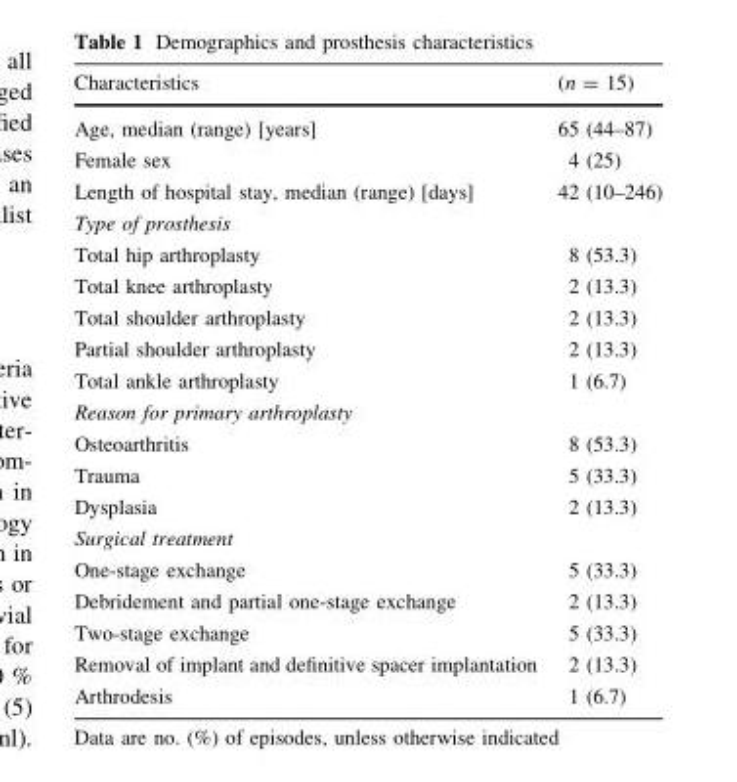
<table><thead><tr><td>Characteristics</td><td>(n = 15)</td></tr></thead><tbody><tr><td>Age, median (range) [years]</td><td>65 (44–87)</td></tr><tr><td>Female sex</td><td>4 (25)</td></tr><tr><td>Length of hospital stay, median (range) [days]</td><td>42 (10–246)</td></tr><tr><td colspan="2">Type of prosthesis</td></tr><tr><td>Total hip arthroplasty</td><td>8 (53.3)</td></tr><tr><td>Total knee arthroplasty</td><td>2 (13.3)</td></tr><tr><td>Total shoulder arthroplasty</td><td>2 (13.3)</td></tr><tr><td>Partial shoulder arthroplasty</td><td>2 (13.3)</td></tr><tr><td>Total ankle arthroplasty</td><td>1 (6.7)</td></tr><tr><td colspan="2">Reason for primary arthroplasty</td></tr><tr><td>Osteoarthritis</td><td>8 (53.3)</td></tr><tr><td>Trauma</td><td>5 (33.3)</td></tr><tr><td>Dysplasia</td><td>2 (13.3)</td></tr><tr><td colspan="2">Surgical treatment</td></tr><tr><td>One-stage exchange</td><td>5 (33.3)</td></tr><tr><td>Debridement and partial one-stage exchange</td><td>2 (13.3)</td></tr><tr><td>Two-stage exchange</td><td>5 (33.3)</td></tr><tr><td>Removal of implant and definitive spacer implantation</td><td>2 (13.3)</td></tr><tr><td>Arthrodesis</td><td>1 (6.7)</td></tr></tbody></table>